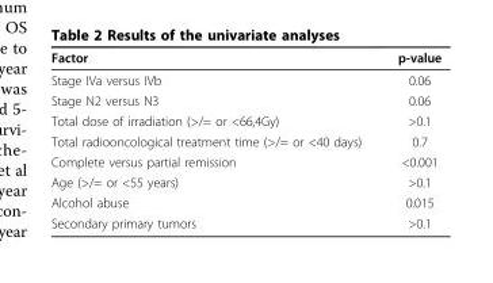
<table><thead><tr><td>Factor</td><td>p-value</td></tr></thead><tbody><tr><td>Stage IVa versus IVb</td><td>0.06</td></tr><tr><td>Stage N2 versus N3</td><td>0.06</td></tr><tr><td>Total dose of irradiation (&gt;/= or &lt;66,4Gy)</td><td>&gt;0.1</td></tr><tr><td>Total radiooncological treatment time (&gt;/= or &lt;40 days)</td><td>0.7</td></tr><tr><td>Complete versus partial remission</td><td>&lt;0.001</td></tr><tr><td>Age (&gt;/= or &lt;55 years)</td><td>&gt;0.1</td></tr><tr><td>Alcohol abuse</td><td>0.015</td></tr><tr><td>Secondary primary tumors</td><td>&gt;0.1</td></tr></tbody></table>